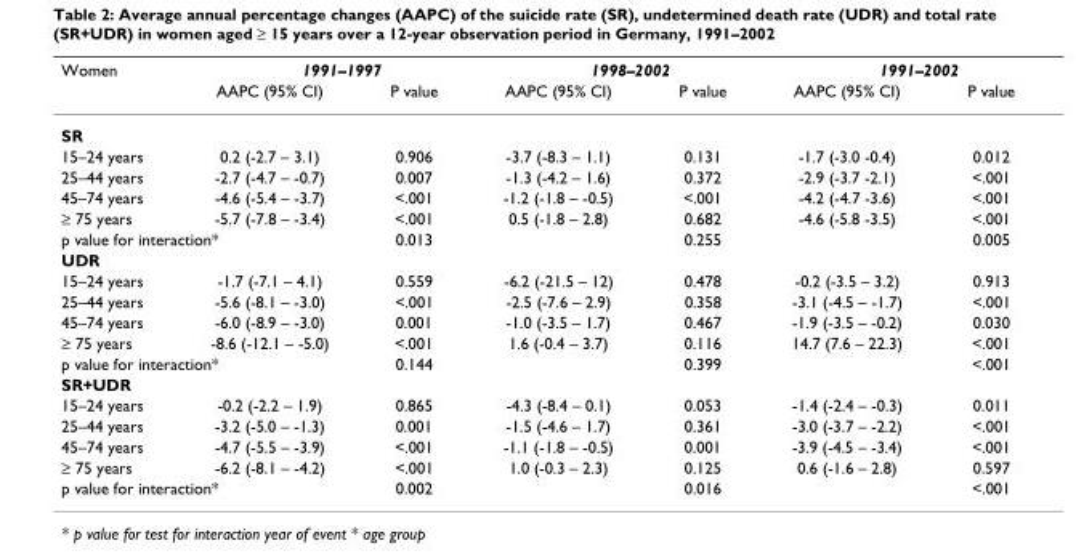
<table><thead><tr><td rowspan="2">Women</td><td colspan="2">1991–1997</td><td colspan="2">1998–2002</td><td colspan="2">1991–2002</td></tr><tr><td>AAPC (95% CI)</td><td>P value</td><td>AAPC (95% CI)</td><td>P value</td><td>AAPC (95% CI)</td><td>P value</td></tr></thead><tbody><tr><td colspan="7">SR</td></tr><tr><td>15–24 years</td><td>0.2 (-2.7 – 3.1)</td><td>0.906</td><td>-3.7 (-8.3 – 1.1)</td><td>0.131</td><td>-1.7 (-3.0 -0.4)</td><td>0.012</td></tr><tr><td>25–44 years</td><td>-2.7 (-4.7 – -0.7)</td><td>0.007</td><td>-1.3 (-4.2 – 1.6)</td><td>0.372</td><td>-2.9 (-3.7 -2.1)</td><td>&lt;.001</td></tr><tr><td>45–74 years</td><td>-4.6 (-5.4 – -3.7)</td><td>&lt;.001</td><td>-1.2 (-1.8 – -0.5)</td><td>&lt;.001</td><td>-4.2 (-4.7 -3.6)</td><td>&lt;.001</td></tr><tr><td>≥ 75 years</td><td>-5.7 (-7.8 – -3.4)</td><td>&lt;.001</td><td>0.5 (-1.8 – 2.8)</td><td>0.682</td><td>-4.6 (-5.8 -3.5)</td><td>&lt;.001</td></tr><tr><td colspan="2">p value for interaction*</td><td>0.013</td><td></td><td>0.255</td><td></td><td>0.005</td></tr><tr><td colspan="7">UDR</td></tr><tr><td>15–24 years</td><td>-1.7 (-7.1 – 4.1)</td><td>0.559</td><td>-6.2 (-21.5 – 12)</td><td>0.478</td><td>-0.2 (-3.5 – 3.2)</td><td>0.913</td></tr><tr><td>25–44 years</td><td>-5.6 (-8.1 – -3.0)</td><td>&lt;.001</td><td>-2.5 (-7.6 – 2.9)</td><td>0.358</td><td>-3.1 (-4.5 – -1.7)</td><td>&lt;.001</td></tr><tr><td>45–74 years</td><td>-6.0 (-8.9 – -3.0)</td><td>0.001</td><td>-1.0 (-3.5 – 1.7)</td><td>0.467</td><td>-1.9 (-3.5 – -0.2)</td><td>0.030</td></tr><tr><td>≥ 75 years</td><td>-8.6 (-12.1 – -5.0)</td><td>&lt;.001</td><td>1.6 (-0.4 – 3.7)</td><td>0.116</td><td>14.7 (7.6 – 22.3)</td><td>&lt;.001</td></tr><tr><td colspan="2">p value for interaction*</td><td>0.144</td><td></td><td>0.399</td><td></td><td>&lt;.001</td></tr><tr><td colspan="7">SR+UDR</td></tr><tr><td>15–24 years</td><td>-0.2 (-2.2 – 1.9)</td><td>0.865</td><td>-4.3 (-8.4 – 0.1)</td><td>0.053</td><td>-1.4 (-2.4 – -0.3)</td><td>0.011</td></tr><tr><td>25–44 years</td><td>-3.2 (-5.0 – -1.3)</td><td>0.001</td><td>-1.5 (-4.6 – 1.7)</td><td>0.361</td><td>-3.0 (-3.7 – -2.2)</td><td>&lt;.001</td></tr><tr><td>45–74 years</td><td>-4.7 (-5.5 – -3.9)</td><td>&lt;.001</td><td>-1.1 (-1.8 – -0.5)</td><td>0.001</td><td>-3.9 (-4.5 – -3.4)</td><td>&lt;.001</td></tr><tr><td>≥ 75 years</td><td>-6.2 (-8.1 – -4.2)</td><td>&lt;.001</td><td>1.0 (-0.3 – 2.3)</td><td>0.125</td><td>0.6 (-1.6 – 2.8)</td><td>0.597</td></tr><tr><td colspan="2">p value for interaction*</td><td>0.002</td><td></td><td>0.016</td><td></td><td>&lt;.001</td></tr></tbody></table>